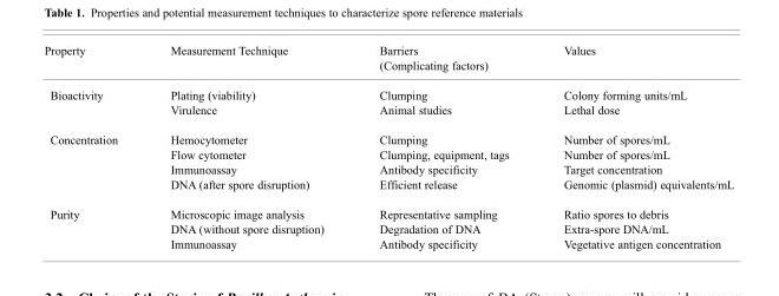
<table><thead><tr><td>Property</td><td>Measurement Technique</td><td>Barriers (Complicating factors)</td><td>Values</td></tr></thead><tbody><tr><td rowspan="2">Bioactivity</td><td>Plating (viability)</td><td>Clumping</td><td>Colony forming units/mL</td></tr><tr><td>Virulence</td><td>Animal studies</td><td>Lethal dose</td></tr><tr><td rowspan="4">Concentration</td><td>Hemocytometer</td><td>Clumping</td><td>Number of spores/mL</td></tr><tr><td>Flow cytometer</td><td>Clumping, equipment, tags</td><td>Number of spores/mL</td></tr><tr><td>Immunoassay</td><td>Antibody specificity</td><td>Target concentration</td></tr><tr><td>DNA (after spore disruption)</td><td>Efficient release</td><td>Genomic (plasmid) equivalents/mL</td></tr><tr><td rowspan="3">Purity</td><td>Microscopic image analysis</td><td>Representative sampling</td><td>Ratio spores to debris</td></tr><tr><td>DNA (without spore disruption)</td><td>Degradation of DNA</td><td>Extra-spore DNA/mL</td></tr><tr><td>Immunoassay</td><td>Antibody specificity</td><td>Vegetative antigen concentration</td></tr></tbody></table>